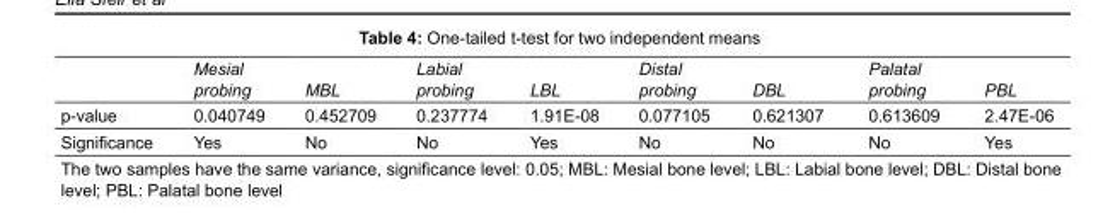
<table><thead><tr><td></td><td>Mesial probing</td><td>MBL</td><td>Labial probing</td><td>LBL</td><td>Distal probing</td><td>DBL</td><td>Palatal probing</td><td>PBL</td></tr></thead><tbody><tr><td>p-value</td><td>0.040749</td><td>0.452709</td><td>0.237774</td><td>1.91E-08</td><td>0.077105</td><td>0.621307</td><td>0.613609</td><td>2.47E-06</td></tr><tr><td>Significance</td><td>Yes</td><td>No</td><td>No</td><td>Yes</td><td>No</td><td>No</td><td>No</td><td>Yes</td></tr></tbody></table>